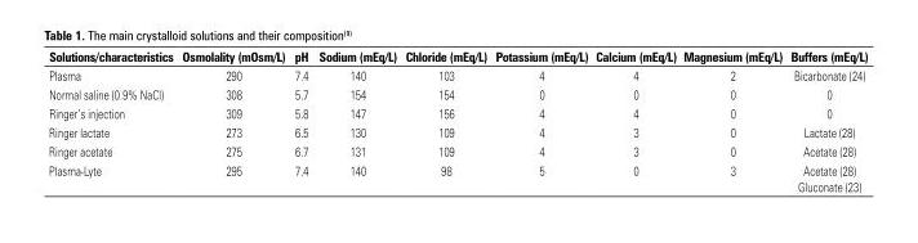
<table><thead><tr><td>Solutions/characteristics</td><td>Osmolality (mOsm/L)</td><td>pH</td><td>Sodium (mEq/L)</td><td>Chloride (mEq/L)</td><td>Potassium (mEq/L)</td><td>Calcium (mEq/L)</td><td>Magnesium (mEq/L)</td><td>Buffers (mEq/L)</td></tr></thead><tbody><tr><td>Plasma</td><td>290</td><td>7.4</td><td>140</td><td>103</td><td>4</td><td>4</td><td>2</td><td>Bicarbonate (24)</td></tr><tr><td>Normal saline (0.9% NaCl)</td><td>308</td><td>5.7</td><td>154</td><td>154</td><td>0</td><td>0</td><td>0</td><td>0</td></tr><tr><td>Ringer’s injection</td><td>309</td><td>5.8</td><td>147</td><td>156</td><td>4</td><td>4</td><td>0</td><td>0</td></tr><tr><td>Ringer lactate</td><td>273</td><td>6.5</td><td>130</td><td>109</td><td>4</td><td>3</td><td>0</td><td>Lactate (28)</td></tr><tr><td>Ringer acetate</td><td>275</td><td>6.7</td><td>131</td><td>109</td><td>4</td><td>3</td><td>0</td><td>Acetate (28)</td></tr><tr><td>Plasma-Lyte</td><td>295</td><td>7.4</td><td>140</td><td>98</td><td>5</td><td>0</td><td>3</td><td>Acetate (28) Gluconate (23)</td></tr></tbody></table>